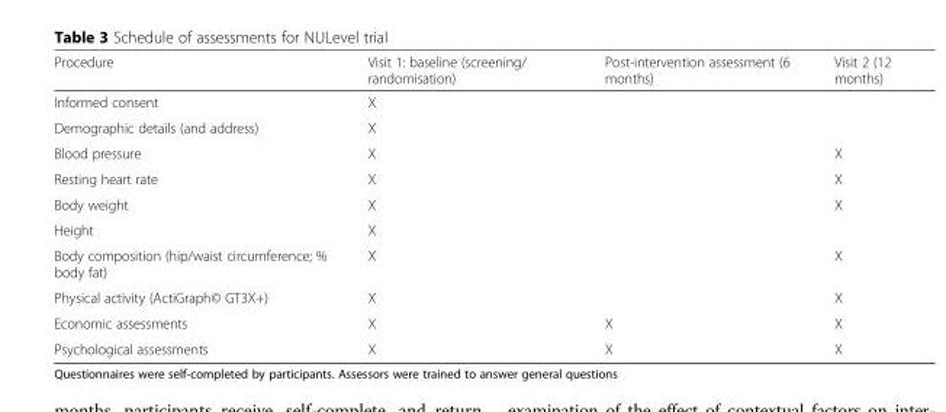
<table><thead><tr><td>Procedure</td><td>Visit 1: baseline (screening/ randomisation)</td><td>Post-intervention assessment (6 months)</td><td>Visit 2 (12 months)</td></tr></thead><tbody><tr><td>Informed consent</td><td>X</td><td></td><td></td></tr><tr><td>Demographic details (and address)</td><td>X</td><td></td><td></td></tr><tr><td>Blood pressure</td><td>X</td><td></td><td>X</td></tr><tr><td>Resting heart rate</td><td>X</td><td></td><td>X</td></tr><tr><td>Body weight</td><td>X</td><td></td><td>X</td></tr><tr><td>Height</td><td>X</td><td></td><td></td></tr><tr><td>Body composition (hip/waist circumference; % body fat)</td><td>X</td><td></td><td>X</td></tr><tr><td>Physical activity (ActiGraph© GT3X+)</td><td>X</td><td></td><td>X</td></tr><tr><td>Economic assessments</td><td>X</td><td>X</td><td>X</td></tr><tr><td>Psychological assessments</td><td>X</td><td>X</td><td>X</td></tr></tbody></table>